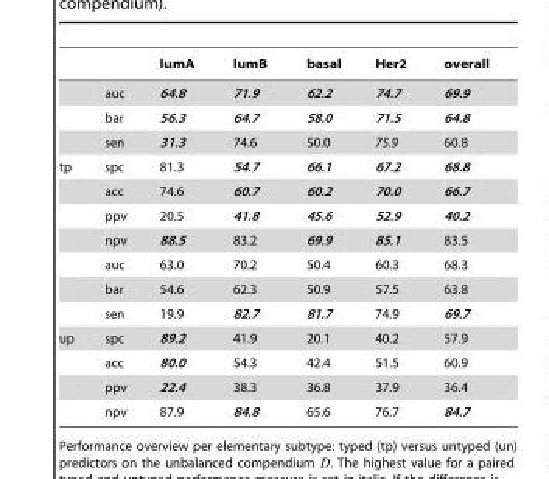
<table><thead><tr><td></td><td></td><td>lumA</td><td>lumB</td><td>basal</td><td>Her2</td><td>overall</td></tr></thead><tbody><tr><td></td><td>auc</td><td>64.8</td><td>71.9</td><td>62.2</td><td>74.7</td><td>69.9</td></tr><tr><td></td><td>bar</td><td>56.3</td><td>64.7</td><td>58.0</td><td>71.5</td><td>64.8</td></tr><tr><td></td><td>sen</td><td>31.3</td><td>74.6</td><td>50.0</td><td>75.9</td><td>60.8</td></tr><tr><td rowspan="7">tp</td><td>spc</td><td>81.3</td><td>54.7</td><td>66.1</td><td>67.2</td><td>68.8</td></tr><tr><td>acc</td><td>74.6</td><td>60.7</td><td>60.2</td><td>70.0</td><td>66.7</td></tr><tr><td>ppv</td><td>20.5</td><td>41.8</td><td>45.6</td><td>52.9</td><td>40.2</td></tr><tr><td>npv</td><td>88.5</td><td>83.2</td><td>69.9</td><td>85.1</td><td>83.5</td></tr><tr><td>auc</td><td>63.0</td><td>70.2</td><td>50.4</td><td>60.3</td><td>68.3</td></tr><tr><td>bar</td><td>54.6</td><td>62.3</td><td>50.9</td><td>57.5</td><td>63.8</td></tr><tr><td>sen</td><td>19.9</td><td>82.7</td><td>81.7</td><td>74.9</td><td>69.7</td></tr><tr><td rowspan="4">up</td><td>spc</td><td>89.2</td><td>41.9</td><td>20.1</td><td>40.2</td><td>57.9</td></tr><tr><td>acc</td><td>80.0</td><td>54.3</td><td>42.4</td><td>51.5</td><td>60.9</td></tr><tr><td>ppv</td><td>22.4</td><td>38.3</td><td>36.8</td><td>37.9</td><td>36.4</td></tr><tr><td>npv</td><td>87.9</td><td>84.8</td><td>65.6</td><td>76.7</td><td>84.7</td></tr></tbody></table>